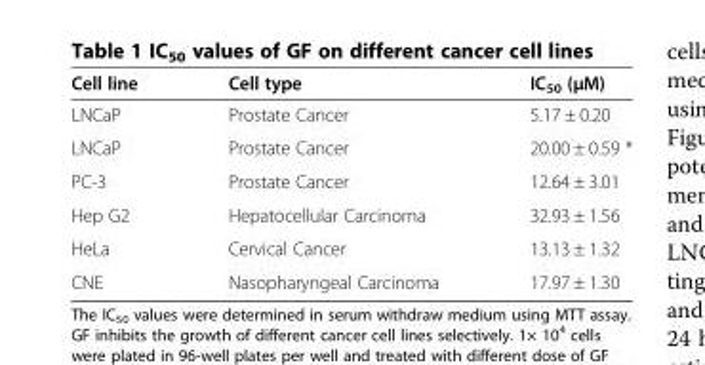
<table><thead><tr><td>Cell line</td><td>Cell type</td><td>IC<sub>50</sub> (μM)</td></tr></thead><tbody><tr><td>LNCaP</td><td>Prostate Cancer</td><td>5.17 ± 0.20</td></tr><tr><td>LNCaP</td><td>Prostate Cancer</td><td>20.00 ± 0.59 *</td></tr><tr><td>PC-3</td><td>Prostate Cancer</td><td>12.64 ± 3.01</td></tr><tr><td>Hep G2</td><td>Hepatocellular Carcinoma</td><td>32.93 ± 1.56</td></tr><tr><td>HeLa</td><td>Cervical Cancer</td><td>13.13 ± 1.32</td></tr><tr><td>CNE</td><td>Nasopharyngeal Carcinoma</td><td>17.97 ± 1.30</td></tr></tbody></table>